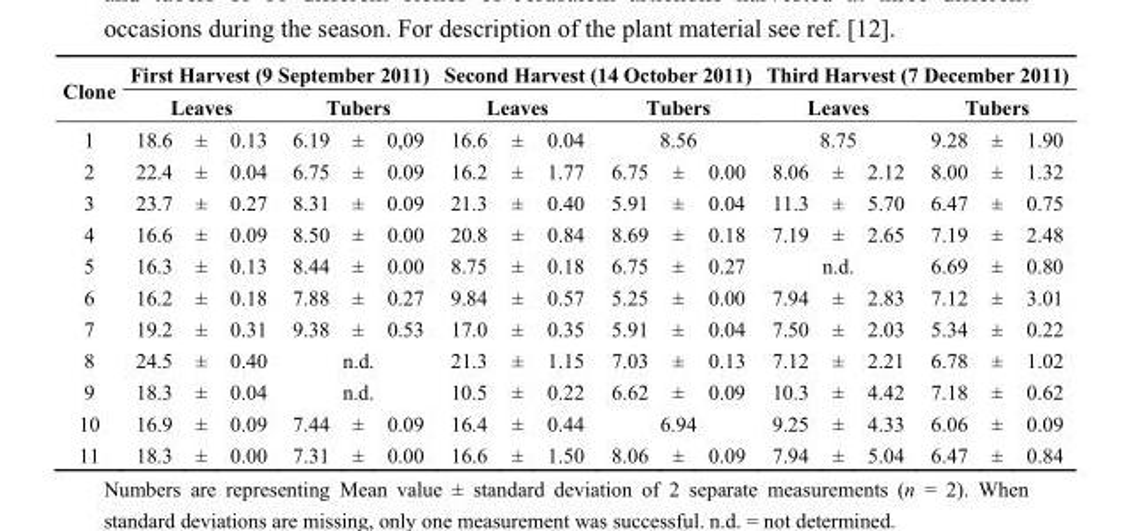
<table><thead><tr><td rowspan="4">Clone 1 2</td><td colspan="6">First Harvest (9 September 2011)</td><td colspan="6">Second Harvest (14 October 2011)</td><td colspan="6">Third Harvest (7 December 2011)</td></tr><tr><td colspan="3">Leaves</td><td colspan="3">Tubers</td><td colspan="3">Leaves</td><td rowspan="2" colspan="3">Tubers 8.56</td><td rowspan="2" colspan="3">Leaves 8.75</td><td colspan="3">Tubers</td></tr><tr><td rowspan="2">18.6 22.4</td><td rowspan="2">± ±</td><td rowspan="2">0.13 0.04</td><td rowspan="2">6.19 6.75</td><td rowspan="2">± ±</td><td rowspan="2">0,09 0.09</td><td rowspan="2">16.6 16.2</td><td rowspan="2">± ±</td><td rowspan="2">0.04 1.77</td><td rowspan="2">9.28 8.00</td><td rowspan="2">± ±</td><td rowspan="2">1.90 1.32</td></tr><tr><td>6.75</td><td>±</td><td>0.00</td><td>8.06</td><td>±</td><td>2.12</td></tr></thead><tbody><tr><td>3</td><td>23.7</td><td>±</td><td>0.27</td><td>8.31</td><td>±</td><td>0.09</td><td>21.3</td><td>±</td><td>0.40</td><td>5.91</td><td>±</td><td>0.04</td><td>11.3</td><td>±</td><td>5.70</td><td>6.47</td><td>±</td><td>0.75</td></tr><tr><td>4</td><td>16.6</td><td>±</td><td>0.09</td><td>8.50</td><td>±</td><td>0.00</td><td>20.8</td><td>±</td><td>0.84</td><td>8.69</td><td>±</td><td>0.18</td><td>7.19</td><td>±</td><td>2.65</td><td>7.19</td><td>±</td><td>2.48</td></tr><tr><td>5</td><td>16.3</td><td>±</td><td>0.13</td><td>8.44</td><td>±</td><td>0.00</td><td>8.75</td><td>±</td><td>0.18</td><td>6.75</td><td>±</td><td>0.27</td><td colspan="3">n.d.</td><td>6.69</td><td>±</td><td>0.80</td></tr><tr><td>6</td><td>16.2</td><td>±</td><td>0.18</td><td>7.88</td><td>±</td><td>0.27</td><td>9.84</td><td>±</td><td>0.57</td><td>5.25</td><td>±</td><td>0.00</td><td>7.94</td><td>±</td><td>2.83</td><td>7.12</td><td>±</td><td>3.01</td></tr><tr><td>7</td><td>19.2</td><td>±</td><td>0.31</td><td>9.38</td><td>±</td><td>0.53</td><td>17.0</td><td>±</td><td>0.35</td><td>5.91</td><td>±</td><td>0.04</td><td>7.50</td><td>±</td><td>2.03</td><td>5.34</td><td>±</td><td>0.22</td></tr><tr><td>8</td><td>24.5</td><td>±</td><td>0.40</td><td colspan="3">n.d.</td><td>21.3</td><td>±</td><td>1.15</td><td>7.03</td><td>±</td><td>0.13</td><td>7.12</td><td>±</td><td>2.21</td><td>6.78</td><td>±</td><td>1.02</td></tr><tr><td>9</td><td>18.3</td><td>±</td><td>0.04</td><td colspan="3">n.d.</td><td>10.5</td><td>±</td><td>0.22</td><td>6.62</td><td>±</td><td>0.09</td><td>10.3</td><td>±</td><td>4.42</td><td>7.18</td><td>±</td><td>0.62</td></tr><tr><td>10</td><td>16.9</td><td>±</td><td>0.09</td><td>7.44</td><td>±</td><td>0.09</td><td>16.4</td><td>±</td><td>0.44</td><td colspan="3">6.94</td><td>9.25</td><td>±</td><td>4.33</td><td>6.06</td><td>±</td><td>0.09</td></tr><tr><td>11</td><td>18.3</td><td>±</td><td>0.00</td><td>7.31</td><td>±</td><td>0.00</td><td>16.6</td><td>±</td><td>1.50</td><td>8.06</td><td>±</td><td>0.09</td><td>7.94</td><td>±</td><td>5.04</td><td>6.47</td><td>±</td><td>0.84</td></tr></tbody></table>